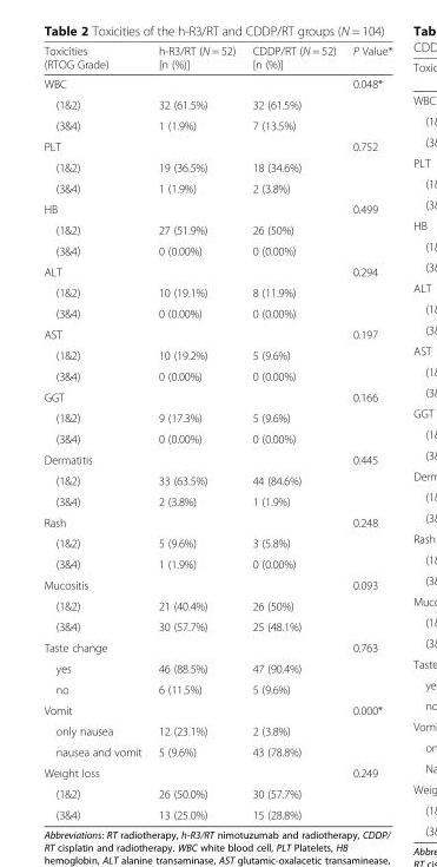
<table><thead><tr><td>Toxicities (RTOG Grade)</td><td>h-R3/RT (N = 52) [n (%)]</td><td>CDDP/RT (N = 52) [n (%)]</td><td>P Value*</td></tr></thead><tbody><tr><td>WBC</td><td></td><td></td><td>0.048*</td></tr><tr><td>(1&amp;2)</td><td>32 (61.5%)</td><td>32 (61.5%)</td><td></td></tr><tr><td>(3&amp;4)</td><td>1 (1.9%)</td><td>7 (13.5%)</td><td></td></tr><tr><td>PLT</td><td></td><td></td><td>0.752</td></tr><tr><td>(1&amp;2)</td><td>19 (36.5%)</td><td>18 (34.6%)</td><td></td></tr><tr><td>(3&amp;4)</td><td>1 (1.9%)</td><td>2 (3.8%)</td><td></td></tr><tr><td>HB</td><td></td><td></td><td>0.499</td></tr><tr><td>(1&amp;2)</td><td>27 (51.9%)</td><td>26 (50%)</td><td></td></tr><tr><td>(3&amp;4)</td><td>0 (0.00%)</td><td>0 (0.00%)</td><td></td></tr><tr><td>ALT</td><td></td><td></td><td>0.294</td></tr><tr><td>(1&amp;2)</td><td>10 (19.1%)</td><td>8 (11.9%)</td><td></td></tr><tr><td>(3&amp;4)</td><td>0 (0.00%)</td><td>0 (0.00%)</td><td></td></tr><tr><td>AST</td><td></td><td></td><td>0.197</td></tr><tr><td>(1&amp;2)</td><td>10 (19.2%)</td><td>5 (9.6%)</td><td></td></tr><tr><td>(3&amp;4)</td><td>0 (0.00%)</td><td>0 (0.00%)</td><td></td></tr><tr><td>GGT</td><td></td><td></td><td>0.166</td></tr><tr><td>(1&amp;2)</td><td>9 (17.3%)</td><td>5 (9.6%)</td><td></td></tr><tr><td>(3&amp;4)</td><td>0 (0.00%)</td><td>0 (0.00%)</td><td></td></tr><tr><td>Dermatitis</td><td></td><td></td><td>0.445</td></tr><tr><td>(1&amp;2)</td><td>33 (63.5%)</td><td>44 (84.6%)</td><td></td></tr><tr><td>(3&amp;4)</td><td>2 (3.8%)</td><td>1 (1.9%)</td><td></td></tr><tr><td>Rash</td><td></td><td></td><td>0.248</td></tr><tr><td>(1&amp;2)</td><td>5 (9.6%)</td><td>3 (5.8%)</td><td></td></tr><tr><td>(3&amp;4)</td><td>1 (1.9%)</td><td>0 (0.00%)</td><td></td></tr><tr><td>Mucositis</td><td></td><td></td><td>0.093</td></tr><tr><td>(1&amp;2)</td><td>21 (40.4%)</td><td>26 (50%)</td><td></td></tr><tr><td>(3&amp;4)</td><td>30 (57.7%)</td><td>25 (48.1%)</td><td></td></tr><tr><td>Taste change</td><td></td><td></td><td>0.763</td></tr><tr><td>yes</td><td>46 (88.5%)</td><td>47 (90.4%)</td><td></td></tr><tr><td>no</td><td>6 (11.5%)</td><td>5 (9.6%)</td><td></td></tr><tr><td>Vomit</td><td></td><td></td><td>0.000*</td></tr><tr><td>only nausea</td><td>12 (23.1%)</td><td>2 (3.8%)</td><td></td></tr><tr><td>nausea and vomit</td><td>5 (9.6%)</td><td>43 (78.8%)</td><td></td></tr><tr><td>Weight loss</td><td></td><td></td><td>0.249</td></tr><tr><td>(1&amp;2)</td><td>26 (50.0%)</td><td>30 (57.7%)</td><td></td></tr><tr><td>(3&amp;4)</td><td>13 (25.0%)</td><td>15 (28.8%)</td><td></td></tr></tbody></table>